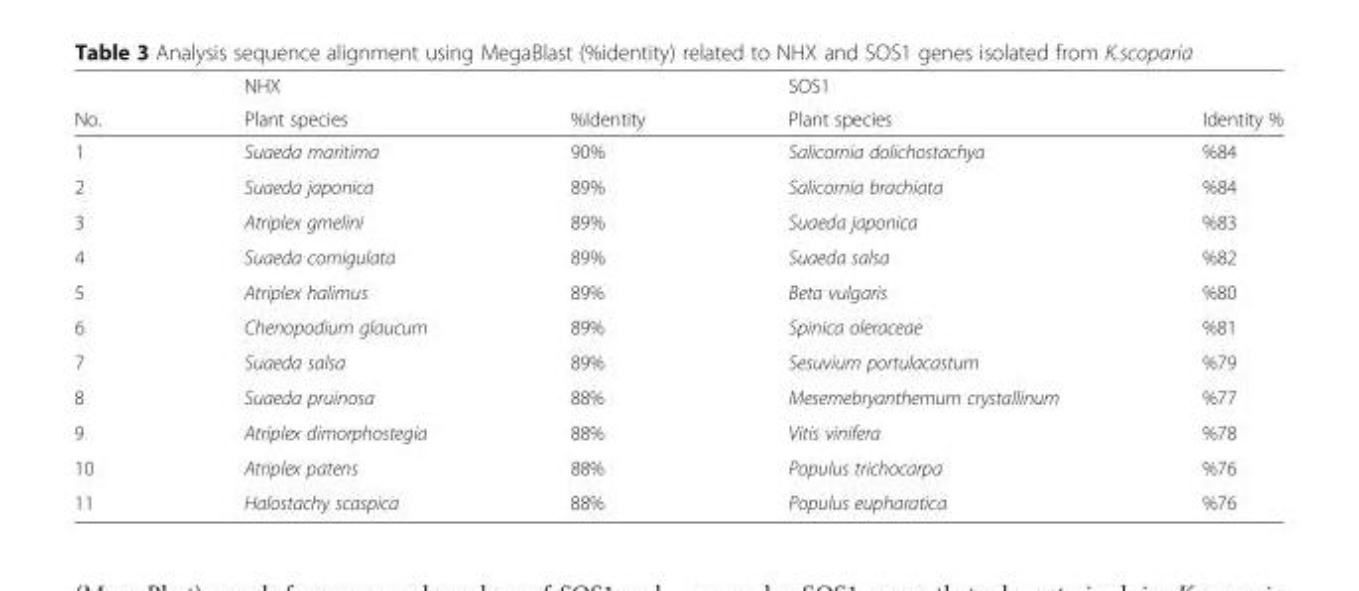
<table><thead><tr><td rowspan="2">No.</td><td rowspan="2">NHX Plant species</td><td rowspan="2">%Identity</td><td rowspan="2">SOS1 Plant species</td><td rowspan="2">Identity %</td></tr><tr></tr></thead><tbody><tr><td>1</td><td>Suaeda maritima</td><td>90%</td><td>Salicornia dolichostachya</td><td>%84</td></tr><tr><td>2</td><td>Suaeda japonica</td><td>89%</td><td>Salicornia brachiata</td><td>%84</td></tr><tr><td>3</td><td>Atriplex gmelini</td><td>89%</td><td>Suaeda japonica</td><td>%83</td></tr><tr><td>4</td><td>Suaeda comigulata</td><td>89%</td><td>Suaeda salsa</td><td>%82</td></tr><tr><td>5</td><td>Atriplex halimus</td><td>89%</td><td>Beta vulgaris</td><td>%80</td></tr><tr><td>6</td><td>Chenopodium glaucum</td><td>89%</td><td>Spinica oleraceae</td><td>%81</td></tr><tr><td>7</td><td>Suaeda salsa</td><td>89%</td><td>Sesuvium portulacastum</td><td>%79</td></tr><tr><td>8</td><td>Suaeda pruinosa</td><td>88%</td><td>Mesemebryanthemum crystallinum</td><td>%77</td></tr><tr><td>9</td><td>Atriplex dimorphostegia</td><td>88%</td><td>Vitis vinifera</td><td>%78</td></tr><tr><td>10</td><td>Atriplex patens</td><td>88%</td><td>Populus trichocarpa</td><td>%76</td></tr><tr><td>11</td><td>Halostachy scaspica</td><td>88%</td><td>Populus eupharatica</td><td>%76</td></tr></tbody></table>